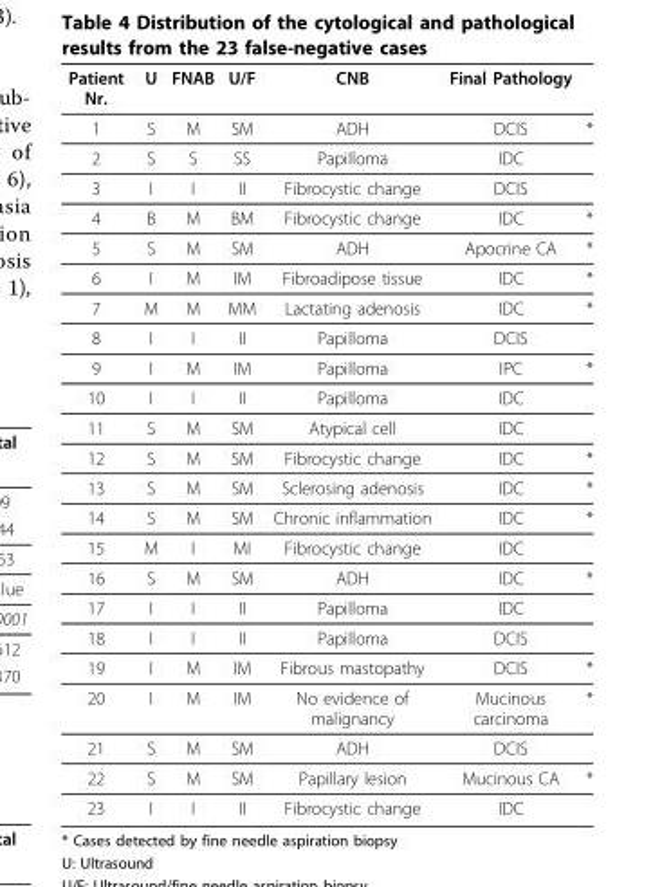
<table><thead><tr><td>Patient Nr.</td><td>U</td><td>FNAB</td><td>U/F</td><td>CNB</td><td>Final Pathology</td><td></td></tr></thead><tbody><tr><td>1</td><td>S</td><td>M</td><td>SM</td><td>ADH</td><td>DCIS</td><td>*</td></tr><tr><td>2</td><td>S</td><td>S</td><td>SS</td><td>Papilloma</td><td>IDC</td><td></td></tr><tr><td>3</td><td>I</td><td>I</td><td>II</td><td>Fibrocystic change</td><td>DCIS</td><td></td></tr><tr><td>4</td><td>B</td><td>M</td><td>BM</td><td>Fibrocystic change</td><td>IDC</td><td>*</td></tr><tr><td>5</td><td>S</td><td>M</td><td>SM</td><td>ADH</td><td>Apocrine CA</td><td>*</td></tr><tr><td>6</td><td>I</td><td>M</td><td>IM</td><td>Fibroadipose tissue</td><td>IDC</td><td>*</td></tr><tr><td>7</td><td>M</td><td>M</td><td>MM</td><td>Lactating adenosis</td><td>IDC</td><td>*</td></tr><tr><td>8</td><td>I</td><td>I</td><td>II</td><td>Papilloma</td><td>DCIS</td><td></td></tr><tr><td>9</td><td>I</td><td>M</td><td>IM</td><td>Papilloma</td><td>IPC</td><td>*</td></tr><tr><td>10</td><td>I</td><td>I</td><td>II</td><td>Papilloma</td><td>IDC</td><td></td></tr><tr><td>11</td><td>S</td><td>M</td><td>SM</td><td>Atypical cell</td><td>IDC</td><td></td></tr><tr><td>12</td><td>S</td><td>M</td><td>SM</td><td>Fibrocystic change</td><td>IDC</td><td>*</td></tr><tr><td>13</td><td>S</td><td>M</td><td>SM</td><td>Sclerosing adenosis</td><td>IDC</td><td>*</td></tr><tr><td>14</td><td>S</td><td>M</td><td>SM</td><td>Chronic inflammation</td><td>IDC</td><td>*</td></tr><tr><td>15</td><td>M</td><td>I</td><td>MI</td><td>Fibrocystic change</td><td>IDC</td><td></td></tr><tr><td>16</td><td>S</td><td>M</td><td>SM</td><td>ADH</td><td>IDC</td><td>*</td></tr><tr><td>17</td><td>I</td><td>I</td><td>II</td><td>Papilloma</td><td>IDC</td><td></td></tr><tr><td>18</td><td>I</td><td>I</td><td>II</td><td>Papilloma</td><td>DCIS</td><td></td></tr><tr><td>19</td><td>I</td><td>M</td><td>IM</td><td>Fibrous mastopathy</td><td>DCIS</td><td>*</td></tr><tr><td>20</td><td>I</td><td>M</td><td>IM</td><td>No evidence of malignancy</td><td>Mucinous carcinoma</td><td>*</td></tr><tr><td>21</td><td>S</td><td>M</td><td>SM</td><td>ADH</td><td>DCIS</td><td></td></tr><tr><td>22</td><td>S</td><td>M</td><td>SM</td><td>Papillary lesion</td><td>Mucinous CA</td><td>*</td></tr><tr><td>23</td><td>I</td><td>I</td><td>II</td><td>Fibrocystic change</td><td>IDC</td><td></td></tr></tbody></table>